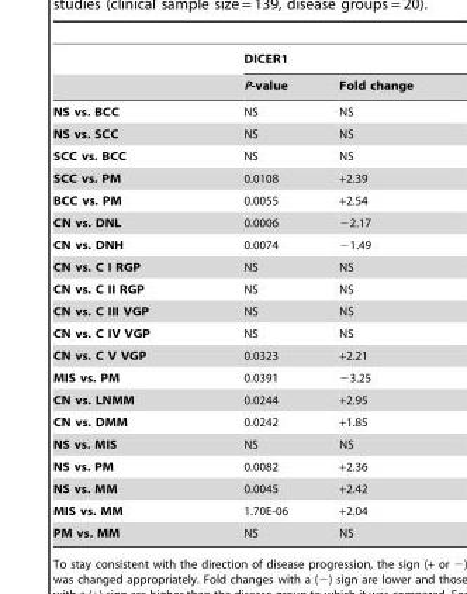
<table><thead><tr><td rowspan="2"></td><td colspan="2">DICER1</td></tr><tr><td>P-value</td><td>Fold change</td></tr></thead><tbody><tr><td>NS vs. BCC</td><td>NS</td><td>NS</td></tr><tr><td>NS vs. SCC</td><td>NS</td><td>NS</td></tr><tr><td>SCC vs. BCC</td><td>NS</td><td>NS</td></tr><tr><td>SCC vs. PM</td><td>0.0108</td><td>+2.39</td></tr><tr><td>BCC vs. PM</td><td>0.0055</td><td>+2.54</td></tr><tr><td>CN vs. DNL</td><td>0.0006</td><td>−2.17</td></tr><tr><td>CN vs. DNH</td><td>0.0074</td><td>−1.49</td></tr><tr><td>CN vs. C I RGP</td><td>NS</td><td>NS</td></tr><tr><td>CN vs. C II RGP</td><td>NS</td><td>NS</td></tr><tr><td>CN vs. C III VGP</td><td>NS</td><td>NS</td></tr><tr><td>CN vs. C IV VGP</td><td>NS</td><td>NS</td></tr><tr><td>CN vs. C V VGP</td><td>0.0323</td><td>+2.21</td></tr><tr><td>MIS vs. PM</td><td>0.0391</td><td>−3.25</td></tr><tr><td>CN vs. LNMM</td><td>0.0244</td><td>+2.95</td></tr><tr><td>CN vs. DMM</td><td>0.0242</td><td>+1.85</td></tr><tr><td>NS vs. MIS</td><td>NS</td><td>NS</td></tr><tr><td>NS vs. PM</td><td>0.0082</td><td>+2.36</td></tr><tr><td>NS vs. MM</td><td>0.0045</td><td>+2.42</td></tr><tr><td>MIS vs. MM</td><td>1.70E-06</td><td>+2.04</td></tr><tr><td>PM vs. MM</td><td>NS</td><td>NS</td></tr></tbody></table>